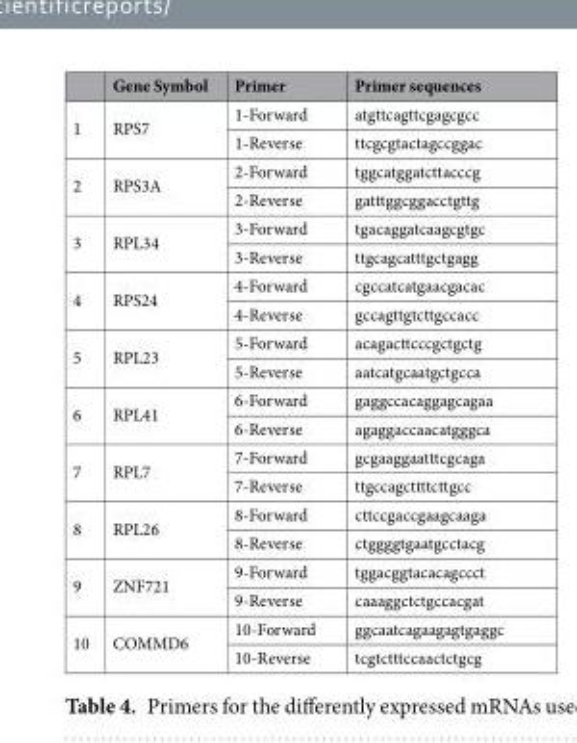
<table><thead><tr><td></td><td>Gene Symbol</td><td>Primer</td><td>Primer sequences</td></tr></thead><tbody><tr><td rowspan="2">1</td><td rowspan="2">RPS7</td><td>1-Forward</td><td>atgttcagttcgagcgcc</td></tr><tr><td>1-Reverse</td><td>ttcgcgtactagccggac</td></tr><tr><td rowspan="2">2</td><td rowspan="2">RPS3A</td><td>2-Forward</td><td>tggcatggatcttacccg</td></tr><tr><td>2-Reverse</td><td>gatttggcggacctgttg</td></tr><tr><td rowspan="2">3</td><td rowspan="2">RPL34</td><td>3-Forward</td><td>tgacaggatcaagcgtgc</td></tr><tr><td>3-Reverse</td><td>ttgcagcatttgctgagg</td></tr><tr><td rowspan="2">4</td><td rowspan="2">RPS24</td><td>4-Forward</td><td>cgccatcatgaacgacac</td></tr><tr><td>4-Reverse</td><td>gccagttgtcttgccacc</td></tr><tr><td rowspan="2">5</td><td rowspan="2">RPL23</td><td>5-Forward</td><td>acagacttcccgctgctg</td></tr><tr><td>5-Reverse</td><td>aatcatgcaatgctgcca</td></tr><tr><td rowspan="2">6</td><td rowspan="2">RPL41</td><td>6-Forward</td><td>gaggccacaggagcagaa</td></tr><tr><td>6-Reverse</td><td>agaggaccaacatgggca</td></tr><tr><td rowspan="2">7</td><td rowspan="2">RPL7</td><td>7-Forward</td><td>gcgaaggaatttcgcaga</td></tr><tr><td>7-Reverse</td><td>ttgccagcttttcttgcc</td></tr><tr><td rowspan="2">8</td><td rowspan="2">RPL26</td><td>8-Forward</td><td>cttccgaccgaagcaaga</td></tr><tr><td>8-Reverse</td><td>ctggggtgaatgcctacg</td></tr><tr><td rowspan="2">9</td><td rowspan="2">ZNF721</td><td>9-Forward</td><td>tggacggtacacagccct</td></tr><tr><td>9-Reverse</td><td>caaaggctctgccacgat</td></tr><tr><td rowspan="2">10</td><td rowspan="2">COMMD6</td><td>10-Forward</td><td>ggcaatcagaagagtgaggc</td></tr><tr><td>10-Reverse</td><td>tcgtctttccaactctgcg</td></tr></tbody></table>